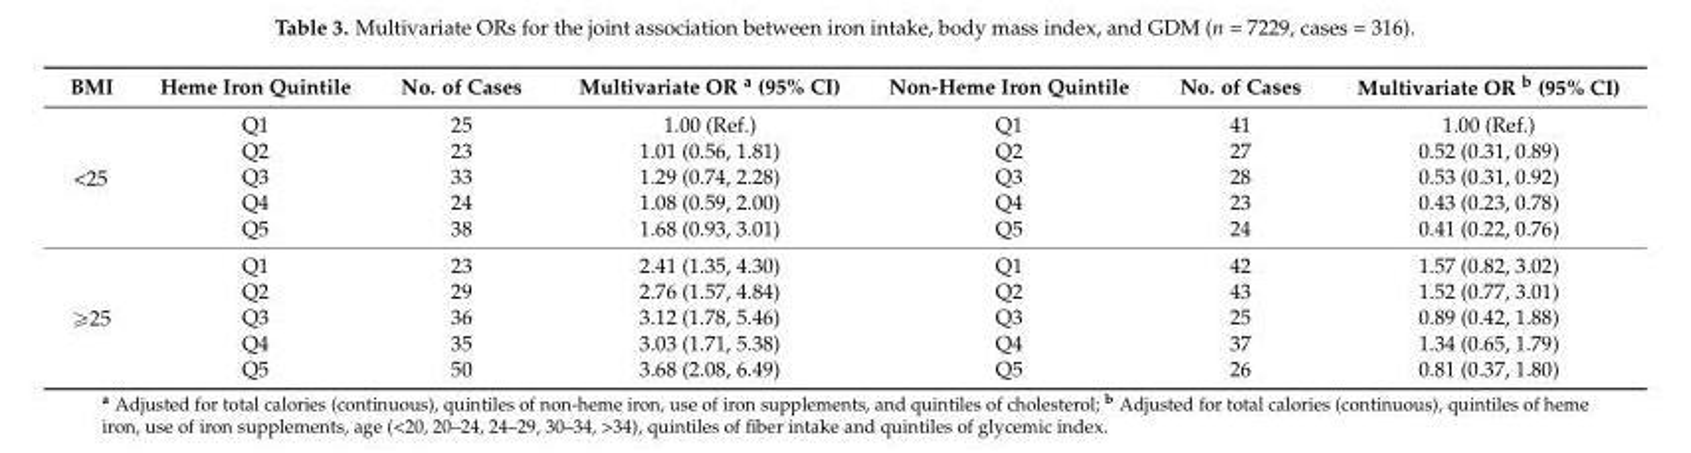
<table><thead><tr><td>BMI</td><td>Heme Iron Quintile</td><td>No. of Cases</td><td>Multivariate OR <sup>a</sup> (95% CI)</td><td>Non-Heme Iron Quintile</td><td>No. of Cases</td><td>Multivariate OR <sup>b</sup> (95% CI)</td></tr></thead><tbody><tr><td rowspan="5">&lt;25</td><td>Q1</td><td>25</td><td>1.00 (Ref.)</td><td>Q1</td><td>41</td><td>1.00 (Ref.)</td></tr><tr><td>Q2</td><td>23</td><td>1.01 (0.56, 1.81)</td><td>Q2</td><td>27</td><td>0.52 (0.31, 0.89)</td></tr><tr><td>Q3</td><td>33</td><td>1.29 (0.74, 2.28)</td><td>Q3</td><td>28</td><td>0.53 (0.31, 0.92)</td></tr><tr><td>Q4</td><td>24</td><td>1.08 (0.59, 2.00)</td><td>Q4</td><td>23</td><td>0.43 (0.23, 0.78)</td></tr><tr><td>Q5</td><td>38</td><td>1.68 (0.93, 3.01)</td><td>Q5</td><td>24</td><td>0.41 (0.22, 0.76)</td></tr><tr><td rowspan="5">ě25</td><td>Q1</td><td>23</td><td>2.41 (1.35, 4.30)</td><td>Q1</td><td>42</td><td>1.57 (0.82, 3.02)</td></tr><tr><td>Q2</td><td>29</td><td>2.76 (1.57, 4.84)</td><td>Q2</td><td>43</td><td>1.52 (0.77, 3.01)</td></tr><tr><td>Q3</td><td>36</td><td>3.12 (1.78, 5.46)</td><td>Q3</td><td>25</td><td>0.89 (0.42, 1.88)</td></tr><tr><td>Q4</td><td>35</td><td>3.03 (1.71, 5.38)</td><td>Q4</td><td>37</td><td>1.34 (0.65, 1.79)</td></tr><tr><td>Q5</td><td>50</td><td>3.68 (2.08, 6.49)</td><td>Q5</td><td>26</td><td>0.81 (0.37, 1.80)</td></tr></tbody></table>